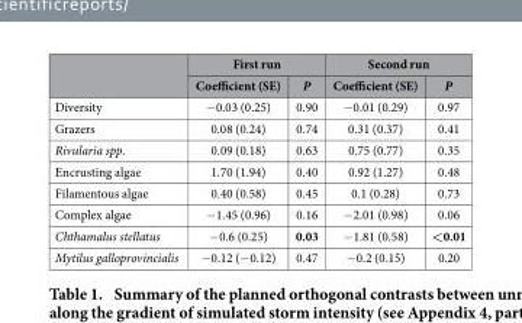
<table><thead><tr><td rowspan="2"></td><td colspan="2">First run</td><td colspan="2">Second run</td></tr><tr><td>Coefficient (SE)</td><td>P</td><td>Coefficient (SE)</td><td>P</td></tr></thead><tbody><tr><td>Diversity</td><td>− 0.03 (0.25)</td><td>0.90</td><td>− 0.01 (0.29)</td><td>0.97</td></tr><tr><td>Grazers</td><td>0.08 (0.24)</td><td>0.74</td><td>0.31 (0.37)</td><td>0.41</td></tr><tr><td>Rivularia spp.</td><td>0.09 (0.18)</td><td>0.63</td><td>0.75 (0.77)</td><td>0.35</td></tr><tr><td>Encrusting algae</td><td>1.70 (1.94)</td><td>0.40</td><td>0.92 (1.27)</td><td>0.48</td></tr><tr><td>Filamentous algae</td><td>0.40 (0.58)</td><td>0.45</td><td>0.1 (0.28)</td><td>0.73</td></tr><tr><td>Complex algae</td><td>− 1.45 (0.96)</td><td>0.16</td><td>− 2.01 (0.98)</td><td>0.06</td></tr><tr><td>Chthamalus stellatus</td><td>− 0.6 (0.25)</td><td>0.03</td><td>− 1.81 (0.58)</td><td>&lt;0.01</td></tr><tr><td>Mytilus galloprovincialis</td><td>− 0.12 (− 0.12)</td><td>0.47</td><td>− 0.2 (0.15)</td><td>0.20</td></tr></tbody></table>